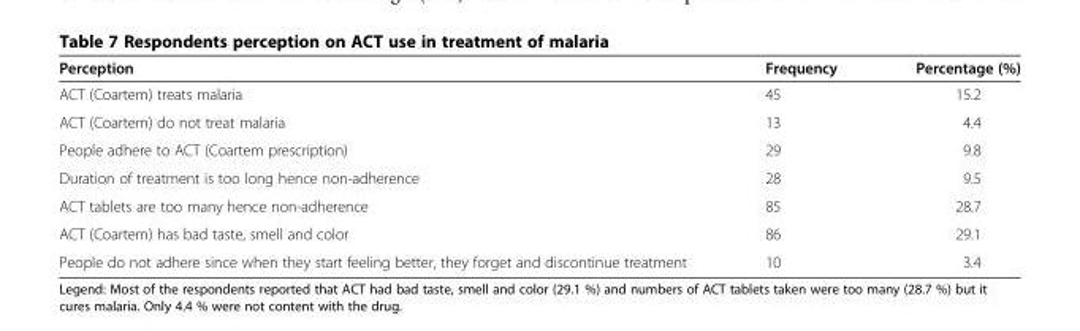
<table><thead><tr><td>Perception</td><td>Frequency</td><td>Percentage (%)</td></tr></thead><tbody><tr><td>ACT (Coartem) treats malaria</td><td>45</td><td>15.2</td></tr><tr><td>ACT (Coartem) do not treat malaria</td><td>13</td><td>4.4</td></tr><tr><td>People adhere to ACT (Coartem prescription)</td><td>29</td><td>9.8</td></tr><tr><td>Duration of treatment is too long hence non-adherence</td><td>28</td><td>9.5</td></tr><tr><td>ACT tablets are too many hence non-adherence</td><td>85</td><td>28.7</td></tr><tr><td>ACT (Coartem) has bad taste, smell and color</td><td>86</td><td>29.1</td></tr><tr><td>People do not adhere since when they start feeling better, they forget and discontinue treatment</td><td>10</td><td>3.4</td></tr></tbody></table>